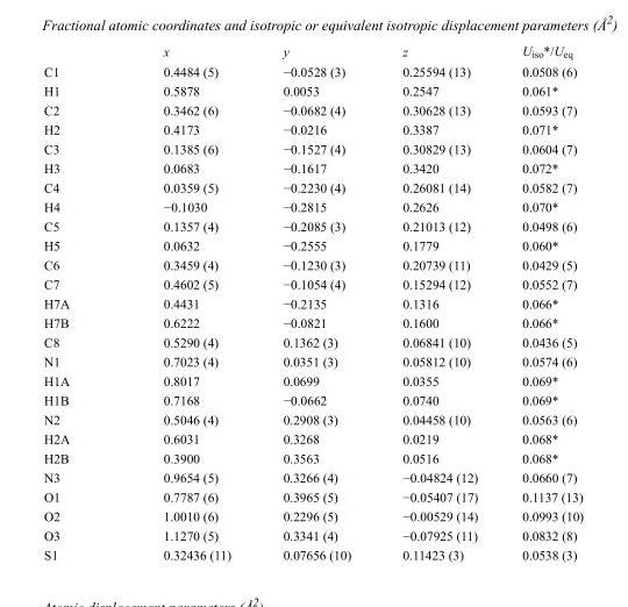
<table><thead><tr><td></td><td>x</td><td>y</td><td>z</td><td>U<sub>iso</sub>*/U<sub>eq</sub></td></tr></thead><tbody><tr><td>C1</td><td>0.4484 (5)</td><td>−0.0528 (3)</td><td>0.25594 (13)</td><td>0.0508 (6)</td></tr><tr><td>H1</td><td>0.5878</td><td>0.0053</td><td>0.2547</td><td>0.061*</td></tr><tr><td>C2</td><td>0.3462 (6)</td><td>−0.0682 (4)</td><td>0.30628 (13)</td><td>0.0593 (7)</td></tr><tr><td>H2</td><td>0.4173</td><td>−0.0216</td><td>0.3387</td><td>0.071*</td></tr><tr><td>C3</td><td>0.1385 (6)</td><td>−0.1527 (4)</td><td>0.30829 (13)</td><td>0.0604 (7)</td></tr><tr><td>H3</td><td>0.0683</td><td>−0.1617</td><td>0.3420</td><td>0.072*</td></tr><tr><td>C4</td><td>0.0359 (5)</td><td>−0.2230 (4)</td><td>0.26081 (14)</td><td>0.0582 (7)</td></tr><tr><td>H4</td><td>−0.1030</td><td>−0.2815</td><td>0.2626</td><td>0.070*</td></tr><tr><td>C5</td><td>0.1357 (4)</td><td>−0.2085 (3)</td><td>0.21013 (12)</td><td>0.0498 (6)</td></tr><tr><td>H5</td><td>0.0632</td><td>−0.2555</td><td>0.1779</td><td>0.060*</td></tr><tr><td>C6</td><td>0.3459 (4)</td><td>−0.1230 (3)</td><td>0.20739 (11)</td><td>0.0429 (5)</td></tr><tr><td>C7</td><td>0.4602 (5)</td><td>−0.1054 (4)</td><td>0.15294 (12)</td><td>0.0552 (7)</td></tr><tr><td>H7A</td><td>0.4431</td><td>−0.2135</td><td>0.1316</td><td>0.066*</td></tr><tr><td>H7B</td><td>0.6222</td><td>−0.0821</td><td>0.1600</td><td>0.066*</td></tr><tr><td>C8</td><td>0.5290 (4)</td><td>0.1362 (3)</td><td>0.06841 (10)</td><td>0.0436 (5)</td></tr><tr><td>N1</td><td>0.7023 (4)</td><td>0.0351 (3)</td><td>0.05812 (10)</td><td>0.0574 (6)</td></tr><tr><td>H1A</td><td>0.8017</td><td>0.0699</td><td>0.0355</td><td>0.069*</td></tr><tr><td>H1B</td><td>0.7168</td><td>−0.0662</td><td>0.0740</td><td>0.069*</td></tr><tr><td>N2</td><td>0.5046 (4)</td><td>0.2908 (3)</td><td>0.04458 (10)</td><td>0.0563 (6)</td></tr><tr><td>H2A</td><td>0.6031</td><td>0.3268</td><td>0.0219</td><td>0.068*</td></tr><tr><td>H2B</td><td>0.3900</td><td>0.3563</td><td>0.0516</td><td>0.068*</td></tr><tr><td>N3</td><td>0.9654 (5)</td><td>0.3266 (4)</td><td>−0.04824 (12)</td><td>0.0660 (7)</td></tr><tr><td>O1</td><td>0.7787 (6)</td><td>0.3965 (5)</td><td>−0.05407 (17)</td><td>0.1137 (13)</td></tr><tr><td>O2</td><td>1.0010 (6)</td><td>0.2296 (5)</td><td>−0.00529 (14)</td><td>0.0993 (10)</td></tr><tr><td>O3</td><td>1.1270 (5)</td><td>0.3341 (4)</td><td>−0.07925 (11)</td><td>0.0832 (8)</td></tr><tr><td>S1</td><td>0.32436 (11)</td><td>0.07656 (10)</td><td>0.11423 (3)</td><td>0.0538 (3)</td></tr></tbody></table>